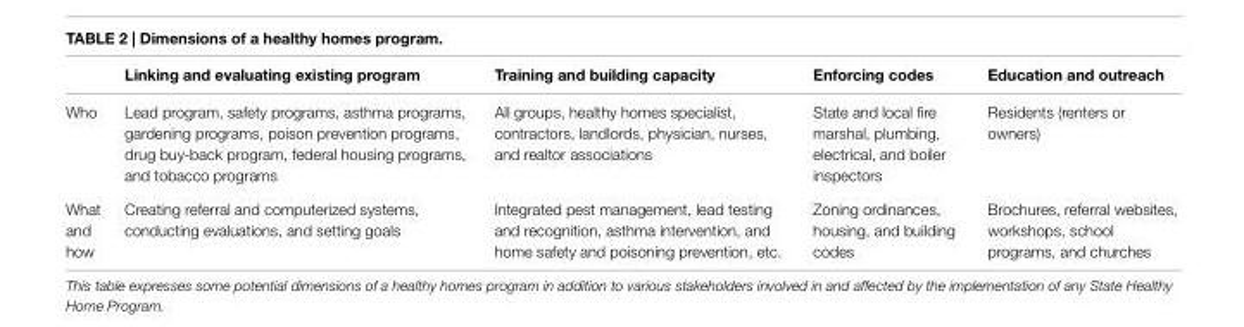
<table><thead><tr><td></td><td>Linking and evaluating existing program</td><td>training and building capacity</td><td>enforcing codes</td><td>education and outreach</td></tr></thead><tbody><tr><td>Who</td><td>Lead program, safety programs, asthma programs, gardening programs, poison prevention programs, drug buy-back program, federal housing programs, and tobacco programs</td><td>All groups, healthy homes specialist, contractors, landlords, physician, nurses, and realtor associations</td><td>State and local fire marshal, plumbing, electrical, and boiler inspectors</td><td>Residents (renters or owners)</td></tr><tr><td>What and how</td><td>Creating referral and computerized systems, conducting evaluations, and setting goals</td><td>Integrated pest management, lead testing and recognition, asthma intervention, and home safety and poisoning prevention, etc.</td><td>Zoning ordinances, housing, and building codes</td><td>Brochures, referral websites, workshops, school programs, and churches</td></tr></tbody></table>